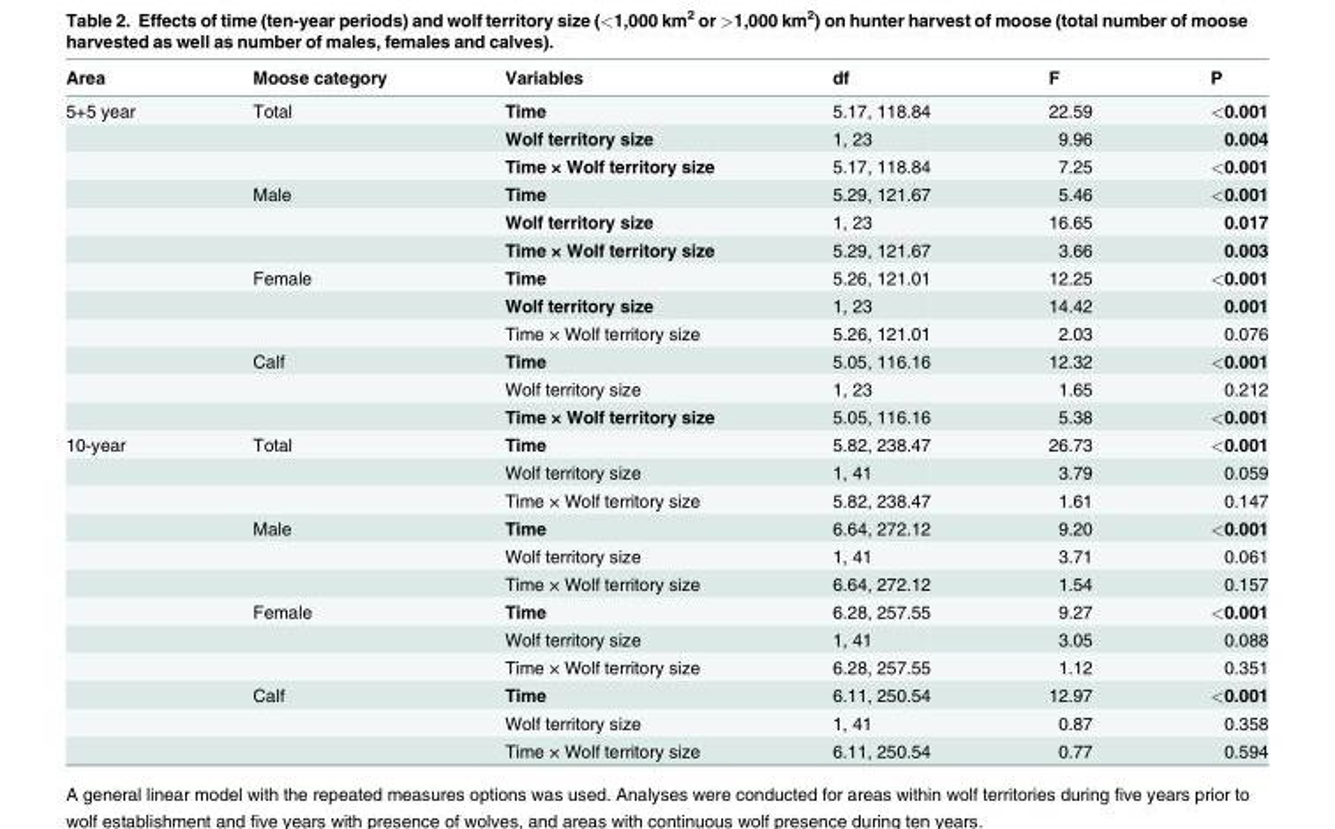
<table><thead><tr><td>Area</td><td>Moose category</td><td>Variables</td><td>df</td><td>F</td><td>P</td></tr></thead><tbody><tr><td rowspan="12">5+5 year</td><td>Total</td><td>Time</td><td>5.17, 118.84</td><td>22.59</td><td>&lt;0.001</td></tr><tr><td></td><td>Wolf territory size</td><td>1, 23</td><td>9.96</td><td>0.004</td></tr><tr><td></td><td>Time × Wolf territory size</td><td>5.17, 118.84</td><td>7.25</td><td>&lt;0.001</td></tr><tr><td>Male</td><td>Time</td><td>5.29, 121.67</td><td>5.46</td><td>&lt;0.001</td></tr><tr><td></td><td>Wolf territory size</td><td>1, 23</td><td>16.65</td><td>0.017</td></tr><tr><td></td><td>Time × Wolf territory size</td><td>5.29, 121.67</td><td>3.66</td><td>0.003</td></tr><tr><td>Female</td><td>Time</td><td>5.26, 121.01</td><td>12.25</td><td>&lt;0.001</td></tr><tr><td></td><td>Wolf territory size</td><td>1, 23</td><td>14.42</td><td>0.001</td></tr><tr><td></td><td>Time × Wolf territory size</td><td>5.26, 121.01</td><td>2.03</td><td>0.076</td></tr><tr><td>Calf</td><td>Time</td><td>5.05, 116.16</td><td>12.32</td><td>&lt;0.001</td></tr><tr><td></td><td>Wolf territory size</td><td>1, 23</td><td>1.65</td><td>0.212</td></tr><tr><td></td><td>Time × Wolf territory size</td><td>5.05, 116.16</td><td>5.38</td><td>&lt;0.001</td></tr><tr><td rowspan="12">10-year</td><td>Total</td><td>Time</td><td>5.82, 238.47</td><td>26.73</td><td>&lt;0.001</td></tr><tr><td></td><td>Wolf territory size</td><td>1, 41</td><td>3.79</td><td>0.059</td></tr><tr><td></td><td>Time × Wolf territory size</td><td>5.82, 238.47</td><td>1.61</td><td>0.147</td></tr><tr><td>Male</td><td>Time</td><td>6.64, 272.12</td><td>9.20</td><td>&lt;0.001</td></tr><tr><td></td><td>Wolf territory size</td><td>1, 41</td><td>3.71</td><td>0.061</td></tr><tr><td></td><td>Time × Wolf territory size</td><td>6.64, 272.12</td><td>1.54</td><td>0.157</td></tr><tr><td>Female</td><td>Time</td><td>6.28, 257.55</td><td>9.27</td><td>&lt;0.001</td></tr><tr><td></td><td>Wolf territory size</td><td>1, 41</td><td>3.05</td><td>0.088</td></tr><tr><td></td><td>Time × Wolf territory size</td><td>6.28, 257.55</td><td>1.12</td><td>0.351</td></tr><tr><td>Calf</td><td>Time</td><td>6.11, 250.54</td><td>12.97</td><td>&lt;0.001</td></tr><tr><td></td><td>Wolf territory size</td><td>1, 41</td><td>0.87</td><td>0.358</td></tr><tr><td></td><td>Time × Wolf territory size</td><td>6.11, 250.54</td><td>0.77</td><td>0.594</td></tr></tbody></table>